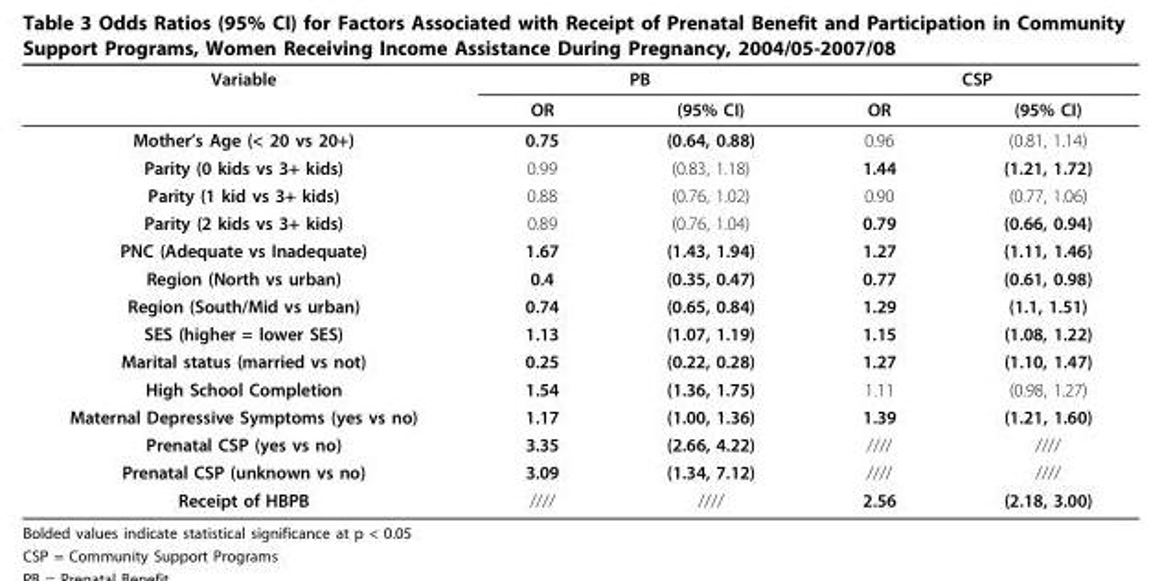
<table><thead><tr><td rowspan="2">Variable</td><td colspan="2">PB</td><td colspan="2">CSP</td></tr><tr><td>OR</td><td>(95% CI)</td><td>OR</td><td>(95% CI)</td></tr></thead><tbody><tr><td>Mother’s Age (&lt; 20 vs 20+)</td><td>0.75</td><td>(0.64, 0.88)</td><td>0.96</td><td>(0.81, 1.14)</td></tr><tr><td>Parity (0 kids vs 3+ kids)</td><td>0.99</td><td>(0.83, 1.18)</td><td>1.44</td><td>(1.21, 1.72)</td></tr><tr><td>Parity (1 kid vs 3+ kids)</td><td>0.88</td><td>(0.76, 1.02)</td><td>0.90</td><td>(0.77, 1.06)</td></tr><tr><td>Parity (2 kids vs 3+ kids)</td><td>0.89</td><td>(0.76, 1.04)</td><td>0.79</td><td>(0.66, 0.94)</td></tr><tr><td>PNC (Adequate vs Inadequate)</td><td>1.67</td><td>(1.43, 1.94)</td><td>1.27</td><td>(1.11, 1.46)</td></tr><tr><td>Region (North vs urban)</td><td>0.4</td><td>(0.35, 0.47)</td><td>0.77</td><td>(0.61, 0.98)</td></tr><tr><td>Region (South/Mid vs urban)</td><td>0.74</td><td>(0.65, 0.84)</td><td>1.29</td><td>(1.1, 1.51)</td></tr><tr><td>SES (higher = lower SES)</td><td>1.13</td><td>(1.07, 1.19)</td><td>1.15</td><td>(1.08, 1.22)</td></tr><tr><td>Marital status (married vs not)</td><td>0.25</td><td>(0.22, 0.28)</td><td>1.27</td><td>(1.10, 1.47)</td></tr><tr><td>High School Completion</td><td>1.54</td><td>(1.36, 1.75)</td><td>1.11</td><td>(0.98, 1.27)</td></tr><tr><td>Maternal Depressive Symptoms (yes vs no)</td><td>1.17</td><td>(1.00, 1.36)</td><td>1.39</td><td>(1.21, 1.60)</td></tr><tr><td>Prenatal CSP (yes vs no)</td><td>3.35</td><td>(2.66, 4.22)</td><td>////</td><td>////</td></tr><tr><td>Prenatal CSP (unknown vs no)</td><td>3.09</td><td>(1.34, 7.12)</td><td>////</td><td>////</td></tr><tr><td>Receipt of HBPB</td><td>////</td><td>////</td><td>2.56</td><td>(2.18, 3.00)</td></tr></tbody></table>